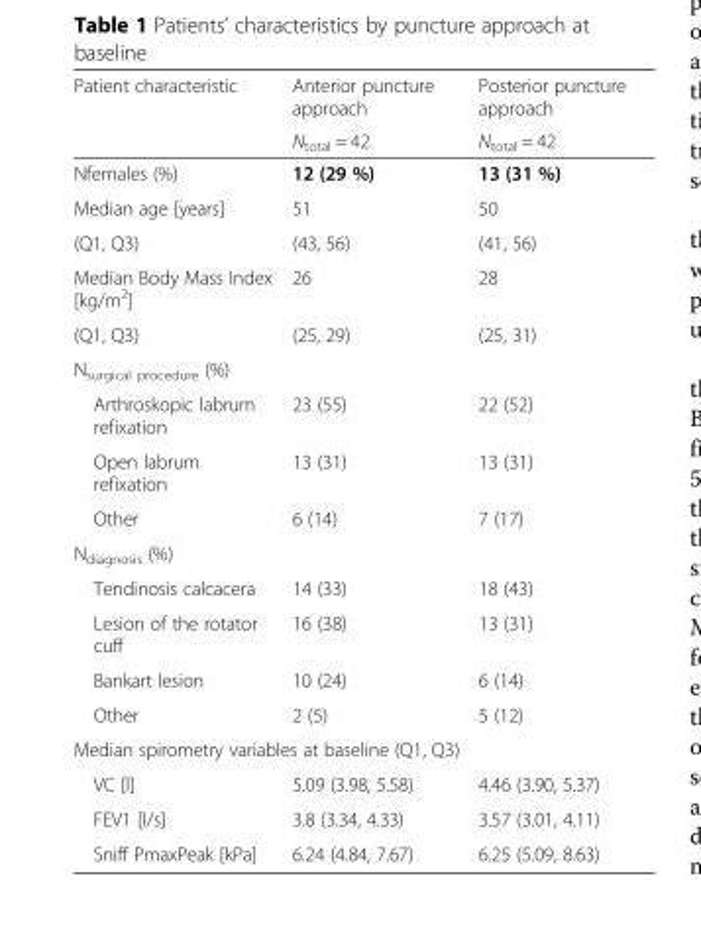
<table><thead><tr><td rowspan="2">Patient characteristic</td><td rowspan="2">Anterior puncture approach N<sub>total</sub> = 42</td><td rowspan="2">Posterior puncture approach N<sub>total</sub> = 42</td></tr><tr></tr></thead><tbody><tr><td>Nfemales (%)</td><td>12 (29 %)</td><td>13 (31 %)</td></tr><tr><td>Median age [years]</td><td>51</td><td>50</td></tr><tr><td>(Q1, Q3)</td><td>(43, 56)</td><td>(41, 56)</td></tr><tr><td>Median Body Mass Index [kg/m<sup>2</sup>]</td><td>26</td><td>28</td></tr><tr><td>(Q1, Q3)</td><td>(25, 29)</td><td>(25, 31)</td></tr><tr><td colspan="3">N<sub>surgical procedure</sub> (%)</td></tr><tr><td>Arthroskopic labrum refixation</td><td>23 (55)</td><td>22 (52)</td></tr><tr><td>Open labrum refixation</td><td>13 (31)</td><td>13 (31)</td></tr><tr><td>Other</td><td>6 (14)</td><td>7 (17)</td></tr><tr><td colspan="3">N<sub>diagnosis</sub> (%)</td></tr><tr><td>Tendinosis calcacera</td><td>14 (33)</td><td>18 (43)</td></tr><tr><td>Lesion of the rotator cuff</td><td>16 (38)</td><td>13 (31)</td></tr><tr><td>Bankart lesion</td><td>10 (24)</td><td>6 (14)</td></tr><tr><td>Other</td><td>2 (5)</td><td>5 (12)</td></tr><tr><td colspan="3">Median spirometry variables at baseline (Q1, Q3)</td></tr><tr><td>VC [l]</td><td>5.09 (3.98, 5.58)</td><td>4.46 (3.90, 5.37)</td></tr><tr><td>FEV1 [l/s]</td><td>3.8 (3.34, 4.33)</td><td>3.57 (3.01, 4.11)</td></tr><tr><td>Sniff PmaxPeak [kPa]</td><td>6.24 (4.84, 7.67)</td><td>6.25 (5.09, 8.63)</td></tr></tbody></table>